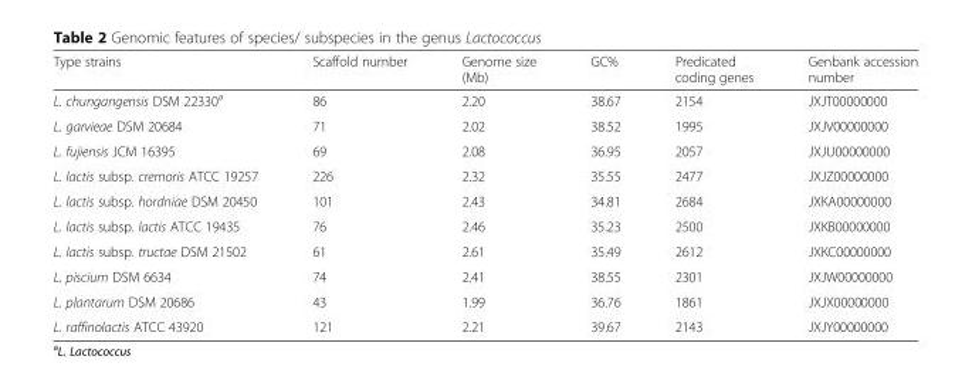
<table><thead><tr><td>Type strains</td><td>Scaffold number</td><td>Genome size (Mb)</td><td>GC%</td><td>Predicated coding genes</td><td>Genbank accession number</td></tr></thead><tbody><tr><td>L. chungangensis DSM 22330<sup>a</sup></td><td>86</td><td>2.20</td><td>38.67</td><td>2154</td><td>JXJT00000000</td></tr><tr><td>L. garvieae DSM 20684</td><td>71</td><td>2.02</td><td>38.52</td><td>1995</td><td>JXJV00000000</td></tr><tr><td>L. fujiensis JCM 16395</td><td>69</td><td>2.08</td><td>36.95</td><td>2057</td><td>JXJU00000000</td></tr><tr><td>L. lactis subsp. cremoris ATCC 19257</td><td>226</td><td>2.32</td><td>35.55</td><td>2477</td><td>JXJZ00000000</td></tr><tr><td>L. lactis subsp. hordniae DSM 20450</td><td>101</td><td>2.43</td><td>34.81</td><td>2684</td><td>JXKA00000000</td></tr><tr><td>L. lactis subsp. lactis ATCC 19435</td><td>76</td><td>2.46</td><td>35.23</td><td>2500</td><td>JXKB00000000</td></tr><tr><td>L. lactis subsp. tructae DSM 21502</td><td>61</td><td>2.61</td><td>35.49</td><td>2612</td><td>JXKC00000000</td></tr><tr><td>L. piscium DSM 6634</td><td>74</td><td>2.41</td><td>38.55</td><td>2301</td><td>JXJW00000000</td></tr><tr><td>L. plantarum DSM 20686</td><td>43</td><td>1.99</td><td>36.76</td><td>1861</td><td>JXJX00000000</td></tr><tr><td>L. raffinolactis ATCC 43920</td><td>121</td><td>2.21</td><td>39.67</td><td>2143</td><td>JXJY00000000</td></tr></tbody></table>